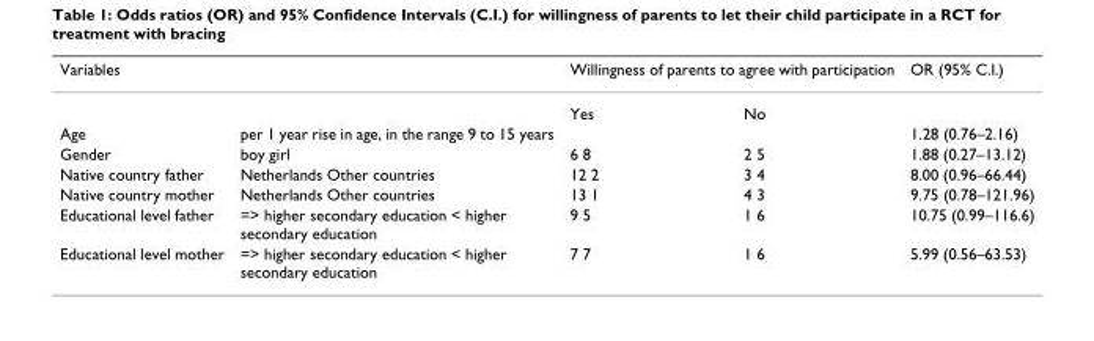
<table><thead><tr><td rowspan="2">Variables</td><td rowspan="2"></td><td colspan="2">Willingness of parents to agree with participation</td><td rowspan="2">OR (95% C.I.)</td></tr><tr><td>Yes</td><td>No</td></tr></thead><tbody><tr><td>Age</td><td>per 1 year rise in age, in the range 9 to 15 years</td><td></td><td></td><td>1.28 (0.76–2.16)</td></tr><tr><td>Gender</td><td>boy girl</td><td>6 8</td><td>2 5</td><td>1.88 (0.27–13.12)</td></tr><tr><td>Native country father</td><td>Netherlands Other countries</td><td>12 2</td><td>3 4</td><td>8.00 (0.96–66.44)</td></tr><tr><td>Native country mother</td><td>Netherlands Other countries</td><td>13 1</td><td>4 3</td><td>9.75 (0.78–121.96)</td></tr><tr><td>Educational level father</td><td>=&gt; higher secondary education &lt; higher secondary education</td><td>9 5</td><td>1 6</td><td>10.75 (0.99–116.6)</td></tr><tr><td>Educational level mother</td><td>=&gt; higher secondary education &lt; higher secondary education</td><td>7 7</td><td>1 6</td><td>5.99 (0.56–63.53)</td></tr></tbody></table>